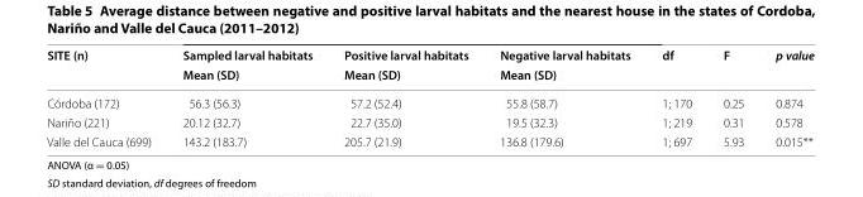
<table><thead><tr><td rowspan="2">SITE (n)</td><td rowspan="2">Sampled larval habitats Mean (SD)</td><td rowspan="2">Positive larval habitats Mean (SD)</td><td rowspan="2">Negative larval habitats Mean (SD)</td><td rowspan="2">df</td><td rowspan="2">F</td><td rowspan="2">p value</td></tr><tr></tr></thead><tbody><tr><td>Córdoba (172)</td><td>56.3 (56.3)</td><td>57.2 (52.4)</td><td>55.8 (58.7)</td><td>1; 170</td><td>0.25</td><td>0.874</td></tr><tr><td>Nariño (221)</td><td>20.12 (32.7)</td><td>22.7 (35.0)</td><td>19.5 (32.3)</td><td>1; 219</td><td>0.31</td><td>0.578</td></tr><tr><td>Valle del Cauca (699)</td><td>143.2 (183.7)</td><td>205.7 (21.9)</td><td>136.8 (179.6)</td><td>1; 697</td><td>5.93</td><td>0.015**</td></tr></tbody></table>